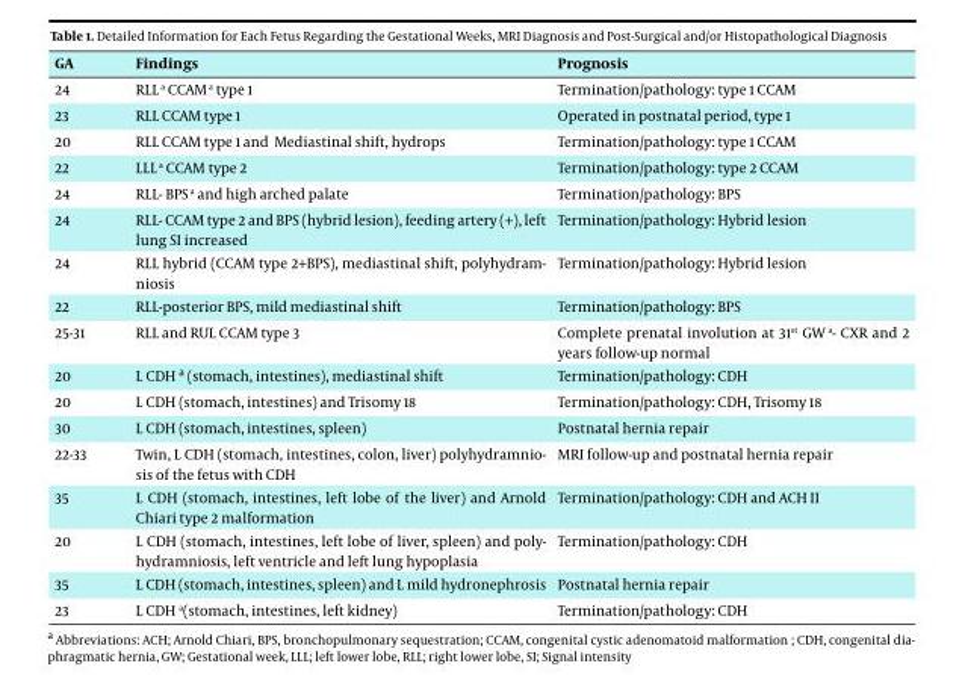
<table><thead><tr><td>GA</td><td>Findings</td><td>Prognosis</td></tr></thead><tbody><tr><td>24</td><td>RLL a CCAM a type 1</td><td>Termination/pathology: type 1 CCAM</td></tr><tr><td>23</td><td>RLL CCAM type 1</td><td>Operated in postnatal period, type 1</td></tr><tr><td>20</td><td>RLL CCAM type 1 and Mediastinal shift, hydrops</td><td>Termination/pathology: type 1 CCAM</td></tr><tr><td>22</td><td>LLL a CCAM type 2</td><td>Termination/pathology: type 2 CCAM</td></tr><tr><td>24</td><td>RLL- BPS a and high arched palate</td><td>Termination/pathology: BPS</td></tr><tr><td>24</td><td>RLL- CCAM type 2 and BPS (hybrid lesion), feeding artery (+), left lung SI increased</td><td>Termination/pathology: Hybrid lesion</td></tr><tr><td>24</td><td>RLL hybrid (CCAM type 2+BPS), mediastinal shift, polyhydram- niosis</td><td>Termination/pathology: Hybrid lesion</td></tr><tr><td>22</td><td>RLL-posterior BPS, mild mediastinal shift</td><td>Termination/pathology: BPS</td></tr><tr><td>25-31</td><td>RLL and RUL CCAM type 3</td><td>Complete prenatal involution at 31<sup>st</sup> GW a- CXR and 2 years follow-up normal</td></tr><tr><td>20</td><td>L CDH a (stomach, intestines), mediastinal shift</td><td>Termination/pathology: CDH</td></tr><tr><td>20</td><td>L CDH (stomach, intestines) and Trisomy 18</td><td>Termination/pathology: CDH, Trisomy 18</td></tr><tr><td>30</td><td>L CDH (stomach, intestines, spleen)</td><td>Postnatal hernia repair</td></tr><tr><td>22-33</td><td>Twin, L CDH (stomach, intestines, colon, liver) polyhydramnio- sis of the fetus with CDH</td><td>MRI follow-up and postnatal hernia repair</td></tr><tr><td>35</td><td>L CDH (stomach, intestines, left lobe of the liver) and Arnold Chiari type 2 malformation</td><td>Termination/pathology: CDH and ACH II</td></tr><tr><td>20</td><td>L CDH (stomach, intestines, left lobe of liver, spleen) and poly- hydramniosis, left ventricle and left lung hypoplasia</td><td>Termination/pathology: CDH</td></tr><tr><td>35</td><td>L CDH (stomach, intestines, spleen) and L mild hydronephrosis</td><td>Postnatal hernia repair</td></tr><tr><td>23</td><td>L CDH a(stomach, intestines, left kidney)</td><td>Termination/pathology: CDH</td></tr></tbody></table>